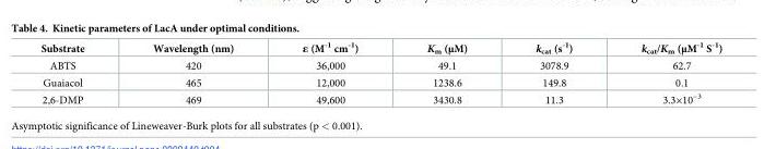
<table><thead><tr><td>Substrate</td><td>Wavelength (nm)</td><td>ε (M<sup>-1</sup> cm<sup>-1</sup>)</td><td>K<sub>m</sub> (μM)</td><td>k<sub>cat</sub> (s<sup>-1</sup>)</td><td>k<sub>cat</sub>/K<sub>m</sub> (μM<sup>-1</sup> S<sup>-1</sup>)</td></tr></thead><tbody><tr><td>ABTS</td><td>420</td><td>36,000</td><td>49.1</td><td>3078.9</td><td>62.7</td></tr><tr><td>Guaiacol</td><td>465</td><td>12,000</td><td>1238.6</td><td>149.8</td><td>0.1</td></tr><tr><td>2,6-DMP</td><td>469</td><td>49,600</td><td>3430.8</td><td>11.3</td><td>3.3×10<sup>−3</sup></td></tr></tbody></table>